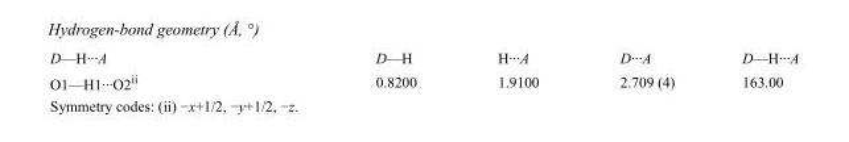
<table><tbody><tr><td>D—H···A</td><td>D—H</td><td>H···A</td><td>D···A</td><td>D—H···A</td></tr><tr><td>O1—H1···O2<sup>ii</sup></td><td>0.8200</td><td>1.9100</td><td>2.709 (4)</td><td>163.00</td></tr></tbody></table>